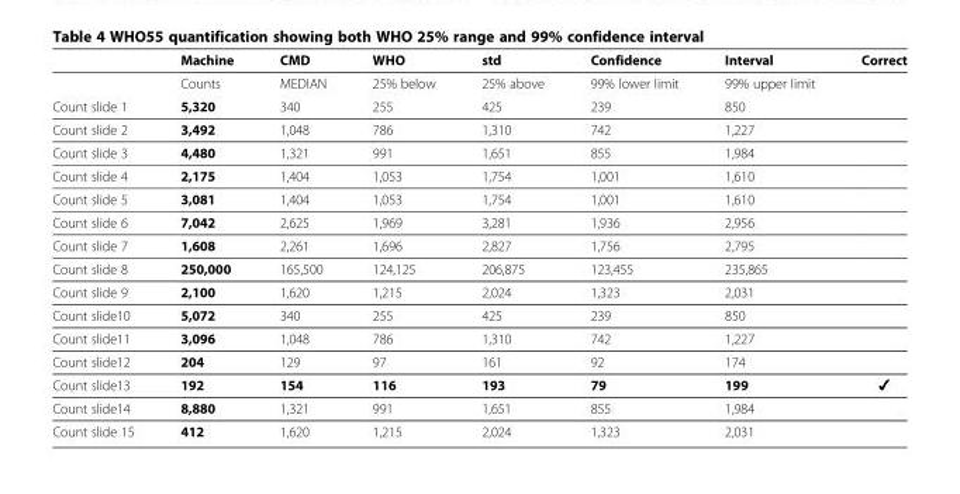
<table><thead><tr><td rowspan="2"></td><td rowspan="2">Machine Counts</td><td rowspan="2">CMD MEDIAN</td><td rowspan="2">WHO 25% below</td><td rowspan="2">std 25% above</td><td rowspan="2">Confidence 99% lower limit</td><td rowspan="2">Interval 99% upper limit</td><td rowspan="2">Correct</td></tr><tr></tr></thead><tbody><tr><td>Count slide 1</td><td>5,320</td><td>340</td><td>255</td><td>425</td><td>239</td><td>850</td><td></td></tr><tr><td>Count slide 2</td><td>3,492</td><td>1,048</td><td>786</td><td>1,310</td><td>742</td><td>1,227</td><td></td></tr><tr><td>Count slide 3</td><td>4,480</td><td>1,321</td><td>991</td><td>1,651</td><td>855</td><td>1,984</td><td></td></tr><tr><td>Count slide 4</td><td>2,175</td><td>1,404</td><td>1,053</td><td>1,754</td><td>1,001</td><td>1,610</td><td></td></tr><tr><td>Count slide 5</td><td>3,081</td><td>1,404</td><td>1,053</td><td>1,754</td><td>1,001</td><td>1,610</td><td></td></tr><tr><td>Count slide 6</td><td>7,042</td><td>2,625</td><td>1,969</td><td>3,281</td><td>1,936</td><td>2,956</td><td></td></tr><tr><td>Count slide 7</td><td>1,608</td><td>2,261</td><td>1,696</td><td>2,827</td><td>1,756</td><td>2,795</td><td></td></tr><tr><td>Count slide 8</td><td>250,000</td><td>165,500</td><td>124,125</td><td>206,875</td><td>123,455</td><td>235,865</td><td></td></tr><tr><td>Count slide 9</td><td>2,100</td><td>1,620</td><td>1,215</td><td>2,024</td><td>1,323</td><td>2,031</td><td></td></tr><tr><td>Count slide10</td><td>5,072</td><td>340</td><td>255</td><td>425</td><td>239</td><td>850</td><td></td></tr><tr><td>Count slide11</td><td>3,096</td><td>1,048</td><td>786</td><td>1,310</td><td>742</td><td>1,227</td><td></td></tr><tr><td>Count slide12</td><td>204</td><td>129</td><td>97</td><td>161</td><td>92</td><td>174</td><td></td></tr><tr><td>Count slide13</td><td>192</td><td>154</td><td>116</td><td>193</td><td>79</td><td>199</td><td>✔</td></tr><tr><td>Count slide14</td><td>8,880</td><td>1,321</td><td>991</td><td>1,651</td><td>855</td><td>1,984</td><td></td></tr><tr><td>Count slide 15</td><td>412</td><td>1,620</td><td>1,215</td><td>2,024</td><td>1,323</td><td>2,031</td><td></td></tr></tbody></table>